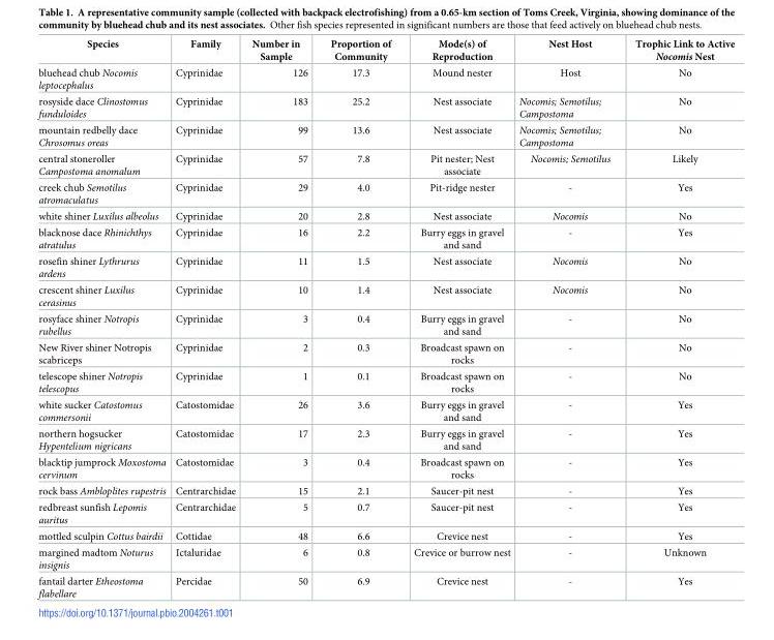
<table><thead><tr><td>Species</td><td>Family</td><td>Number in Sample</td><td>Proportion of Community</td><td>Mode(s) of Reproduction</td><td>Nest Host</td><td>Trophic Link to Active Nocomis Nest</td></tr></thead><tbody><tr><td>bluehead chub Nocomis leptocephalus</td><td>Cyprinidae</td><td>126</td><td>17.3</td><td>Mound nester</td><td>Host</td><td>No</td></tr><tr><td>rosyside dace Clinostomus funduloides</td><td>Cyprinidae</td><td>183</td><td>25.2</td><td>Nest associate</td><td>Nocomis; Semotilus; Campostoma</td><td>No</td></tr><tr><td>mountain redbelly dace Chrosomus oreas</td><td>Cyprinidae</td><td>99</td><td>13.6</td><td>Nest associate</td><td>Nocomis; Semotilus; Campostoma</td><td>No</td></tr><tr><td>central stoneroller Campostoma anomalum</td><td>Cyprinidae</td><td>57</td><td>7.8</td><td>Pit nester; Nest associate</td><td>Nocomis; Semotilus</td><td>Likely</td></tr><tr><td>creek chub Semotilus atromaculatus</td><td>Cyprinidae</td><td>29</td><td>4.0</td><td>Pit-ridge nester</td><td>-</td><td>Yes</td></tr><tr><td>white shiner Luxilus albeolus</td><td>Cyprinidae</td><td>20</td><td>2.8</td><td>Nest associate</td><td>Nocomis</td><td>No</td></tr><tr><td>blacknose dace Rhinichthys atratulus</td><td>Cyprinidae</td><td>16</td><td>2.2</td><td>Burry eggs in gravel and sand</td><td>-</td><td>Yes</td></tr><tr><td>rosefin shiner Lythrurus ardens</td><td>Cyprinidae</td><td>11</td><td>1.5</td><td>Nest associate</td><td>Nocomis</td><td>No</td></tr><tr><td>crescent shiner Luxilus cerasinus</td><td>Cyprinidae</td><td>10</td><td>1.4</td><td>Nest associate</td><td>Nocomis</td><td>No</td></tr><tr><td>rosyface shiner Notropis rubellus</td><td>Cyprinidae</td><td>3</td><td>0.4</td><td>Burry eggs in gravel and sand</td><td>-</td><td>No</td></tr><tr><td>New River shiner Notropis scabriceps</td><td>Cyprinidae</td><td>2</td><td>0.3</td><td>Broadcast spawn on rocks</td><td>-</td><td>No</td></tr><tr><td>telescope shiner Notropis telescopus</td><td>Cyprinidae</td><td>1</td><td>0.1</td><td>Broadcast spawn on rocks</td><td>-</td><td>No</td></tr><tr><td>white sucker Catostomus commersonii</td><td>Catostomidae</td><td>26</td><td>3.6</td><td>Burry eggs in gravel and sand</td><td>-</td><td>Yes</td></tr><tr><td>northern hogsucker Hypentelium nigricans</td><td>Catostomidae</td><td>17</td><td>2.3</td><td>Burry eggs in gravel and sand</td><td>-</td><td>Yes</td></tr><tr><td>blacktip jumprock Moxostoma cervinum</td><td>Catostomidae</td><td>3</td><td>0.4</td><td>Broadcast spawn on rocks</td><td>-</td><td>Yes</td></tr><tr><td>rock bass Ambloplites rupestris</td><td>Centrarchidae</td><td>15</td><td>2.1</td><td>Saucer-pit nest</td><td>-</td><td>Yes</td></tr><tr><td>redbreast sunfish Lepomis auritus</td><td>Centrarchidae</td><td>5</td><td>0.7</td><td>Saucer-pit nest</td><td>-</td><td>Yes</td></tr><tr><td>mottled sculpin Cottus bairdii</td><td>Cottidae</td><td>48</td><td>6.6</td><td>Crevice nest</td><td>-</td><td>Yes</td></tr><tr><td>margined madtom Noturus insignis</td><td>Ictaluridae</td><td>6</td><td>0.8</td><td>Crevice or burrow nest</td><td>-</td><td>Unknown</td></tr><tr><td>fantail darter Etheostoma flabellare</td><td>Percidae</td><td>50</td><td>6.9</td><td>Crevice nest</td><td>-</td><td>Yes</td></tr></tbody></table>